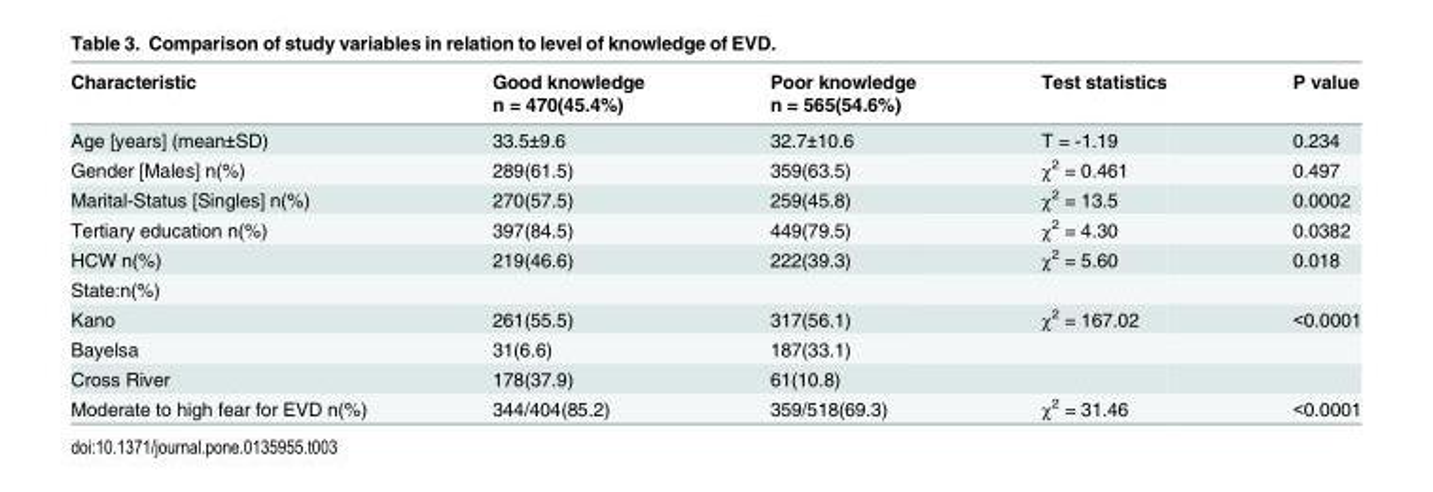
<table><thead><tr><td rowspan="2">Characteristic</td><td rowspan="2">Good knowledge n = 470(45.4%)</td><td rowspan="2">Poor knowledge n = 565(54.6%)</td><td rowspan="2">Test statistics</td><td rowspan="2">P value</td></tr><tr></tr></thead><tbody><tr><td>Age [years] (mean±SD)</td><td>33.5±9.6</td><td>32.7±10.6</td><td>T = -1.19</td><td>0.234</td></tr><tr><td>Gender [Males] n(%)</td><td>289(61.5)</td><td>359(63.5)</td><td>χ<sup>2</sup> = 0.461</td><td>0.497</td></tr><tr><td>Marital-Status [Singles] n(%)</td><td>270(57.5)</td><td>259(45.8)</td><td>χ<sup>2</sup> = 13.5</td><td>0.0002</td></tr><tr><td>Tertiary education n(%)</td><td>397(84.5)</td><td>449(79.5)</td><td>χ<sup>2</sup> = 4.30</td><td>0.0382</td></tr><tr><td>HCW n(%)</td><td>219(46.6)</td><td>222(39.3)</td><td>χ<sup>2</sup> = 5.60</td><td>0.018</td></tr><tr><td colspan="5">State:n(%)</td></tr><tr><td>Kano</td><td>261(55.5)</td><td>317(56.1)</td><td>χ<sup>2</sup> = 167.02</td><td>&lt;0.0001</td></tr><tr><td>Bayelsa</td><td>31(6.6)</td><td>187(33.1)</td><td></td><td></td></tr><tr><td>Cross River</td><td>178(37.9)</td><td>61(10.8)</td><td></td><td></td></tr><tr><td>Moderate to high fear for EVD n(%)</td><td>344/404(85.2)</td><td>359/518(69.3)</td><td>χ<sup>2</sup> = 31.46</td><td>&lt;0.0001</td></tr></tbody></table>